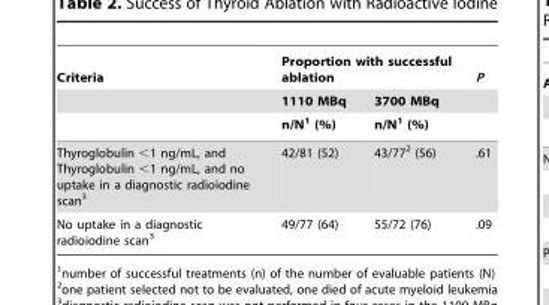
<table><thead><tr><td rowspan="3">Criteria</td><td colspan="2">Proportion with successful ablation</td><td rowspan="3">P</td></tr><tr><td rowspan="2">1110 MBq n/N<sup>1</sup> (%)</td><td rowspan="2">3700 MBq n/N<sup>1</sup> (%)</td></tr><tr></tr></thead><tbody><tr><td>Thyroglobulin &lt;1 ng/mL, and Thyroglobulin &lt;1 ng/mL, and no uptake in a diagnostic radioiodine scan<sup>3</sup></td><td>42/81 (52)</td><td>43/77<sup>2</sup> (56)</td><td>.61</td></tr><tr><td>No uptake in a diagnostic radioiodine scan<sup>3</sup></td><td>49/77 (64)</td><td>55/72 (76)</td><td>.09</td></tr></tbody></table>